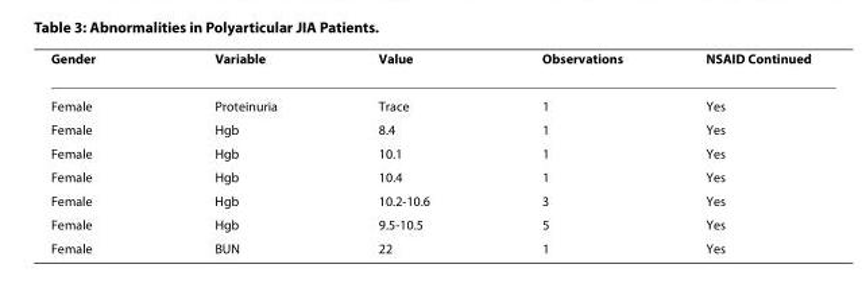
<table><thead><tr><td>Gender</td><td>Variable</td><td>Value</td><td>Observations</td><td>NSAID Continued</td></tr></thead><tbody><tr><td>Female</td><td>Proteinuria</td><td>Trace</td><td>1</td><td>Yes</td></tr><tr><td>Female</td><td>Hgb</td><td>8.4</td><td>1</td><td>Yes</td></tr><tr><td>Female</td><td>Hgb</td><td>10.1</td><td>1</td><td>Yes</td></tr><tr><td>Female</td><td>Hgb</td><td>10.4</td><td>1</td><td>Yes</td></tr><tr><td>Female</td><td>Hgb</td><td>10.2-10.6</td><td>3</td><td>Yes</td></tr><tr><td>Female</td><td>Hgb</td><td>9.5-10.5</td><td>5</td><td>Yes</td></tr><tr><td>Female</td><td>BUN</td><td>22</td><td>1</td><td>Yes</td></tr></tbody></table>